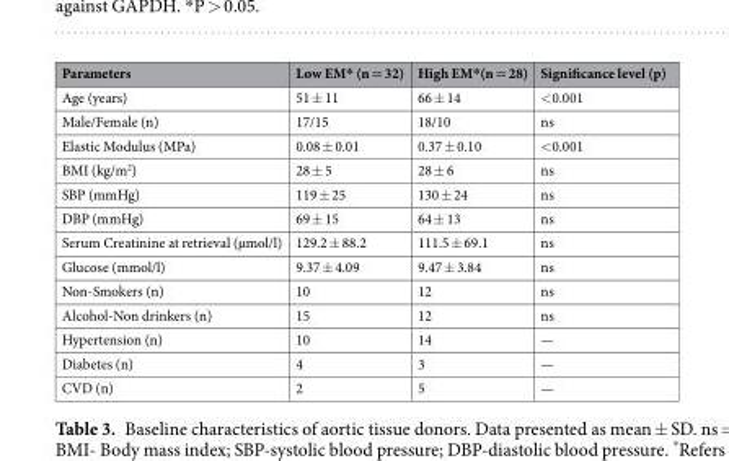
<table><thead><tr><td>Parameters</td><td>Low EM* (n = 32)</td><td>High EM*(n = 28)</td><td>Significance level (p)</td></tr></thead><tbody><tr><td>Age (years)</td><td>51 ± 11</td><td>66 ± 14</td><td>&lt;0.001</td></tr><tr><td>Male/Female (n)</td><td>17/15</td><td>18/10</td><td>ns</td></tr><tr><td>Elastic Modulus (MPa)</td><td>0.08 ± 0.01</td><td>0.37 ± 0.10</td><td>&lt;0.001</td></tr><tr><td>BMI (kg/m<sup>2</sup>)</td><td>28 ± 5</td><td>28 ± 6</td><td>ns</td></tr><tr><td>SBP (mmHg)</td><td>119 ± 25</td><td>130 ± 24</td><td>ns</td></tr><tr><td>DBP (mmHg)</td><td>69 ± 15</td><td>64 ± 13</td><td>ns</td></tr><tr><td>Serum Creatinine at retrieval (µmol/l)</td><td>129.2 ± 88.2</td><td>111.5 ± 69.1</td><td>ns</td></tr><tr><td>Glucose (mmol/l)</td><td>9.37 ± 4.09</td><td>9.47 ± 3.84</td><td>ns</td></tr><tr><td>Non-Smokers (n)</td><td>10</td><td>12</td><td>ns</td></tr><tr><td>Alcohol-Non drinkers (n)</td><td>15</td><td>12</td><td>ns</td></tr><tr><td>Hypertension (n)</td><td>10</td><td>14</td><td>—</td></tr><tr><td>Diabetes (n)</td><td>4</td><td>3</td><td>—</td></tr><tr><td>CVD (n)</td><td>2</td><td>5</td><td>—</td></tr></tbody></table>